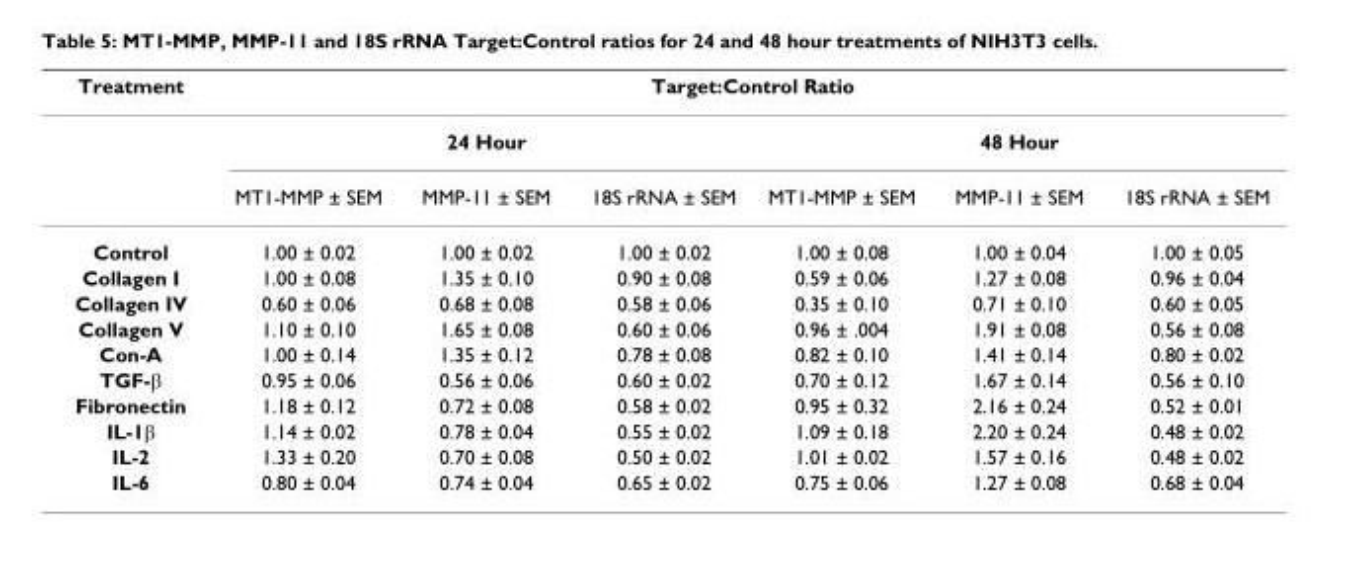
<table><thead><tr><td rowspan="3">Treatment</td><td colspan="6">Target:Control Ratio</td></tr><tr><td colspan="3">24 Hour</td><td colspan="3">48 Hour</td></tr><tr><td>MT1-MMP ± SEM</td><td>MMP-11 ± SEM</td><td>18S rRNA ± SEM</td><td>MT1-MMP ± SEM</td><td>MMP-11 ± SEM</td><td>18S rRNA ± SEM</td></tr></thead><tbody><tr><td>Control</td><td>1.00 ± 0.02</td><td>1.00 ± 0.02</td><td>1.00 ± 0.02</td><td>1.00 ± 0.08</td><td>1.00 ± 0.04</td><td>1.00 ± 0.05</td></tr><tr><td>Collagen I</td><td>1.00 ± 0.08</td><td>1.35 ± 0.10</td><td>0.90 ± 0.08</td><td>0.59 ± 0.06</td><td>1.27 ± 0.08</td><td>0.96 ± 0.04</td></tr><tr><td>Collagen IV</td><td>0.60 ± 0.06</td><td>0.68 ± 0.08</td><td>0.58 ± 0.06</td><td>0.35 ± 0.10</td><td>0.71 ± 0.10</td><td>0.60 ± 0.05</td></tr><tr><td>Collagen V</td><td>1.10 ± 0.10</td><td>1.65 ± 0.08</td><td>0.60 ± 0.06</td><td>0.96 ± .004</td><td>1.91 ± 0.08</td><td>0.56 ± 0.08</td></tr><tr><td>Con-A</td><td>1.00 ± 0.14</td><td>1.35 ± 0.12</td><td>0.78 ± 0.08</td><td>0.82 ± 0.10</td><td>1.41 ± 0.14</td><td>0.80 ± 0.02</td></tr><tr><td>TGF-β</td><td>0.95 ± 0.06</td><td>0.56 ± 0.06</td><td>0.60 ± 0.02</td><td>0.70 ± 0.12</td><td>1.67 ± 0.14</td><td>0.56 ± 0.10</td></tr><tr><td>Fibronectin</td><td>1.18 ± 0.12</td><td>0.72 ± 0.08</td><td>0.58 ± 0.02</td><td>0.95 ± 0.32</td><td>2.16 ± 0.24</td><td>0.52 ± 0.01</td></tr><tr><td>IL-1β</td><td>1.14 ± 0.02</td><td>0.78 ± 0.04</td><td>0.55 ± 0.02</td><td>1.09 ± 0.18</td><td>2.20 ± 0.24</td><td>0.48 ± 0.02</td></tr><tr><td>IL-2</td><td>1.33 ± 0.20</td><td>0.70 ± 0.08</td><td>0.50 ± 0.02</td><td>1.01 ± 0.02</td><td>1.57 ± 0.16</td><td>0.48 ± 0.02</td></tr><tr><td>IL-6</td><td>0.80 ± 0.04</td><td>0.74 ± 0.04</td><td>0.65 ± 0.02</td><td>0.75 ± 0.06</td><td>1.27 ± 0.08</td><td>0.68 ± 0.04</td></tr></tbody></table>